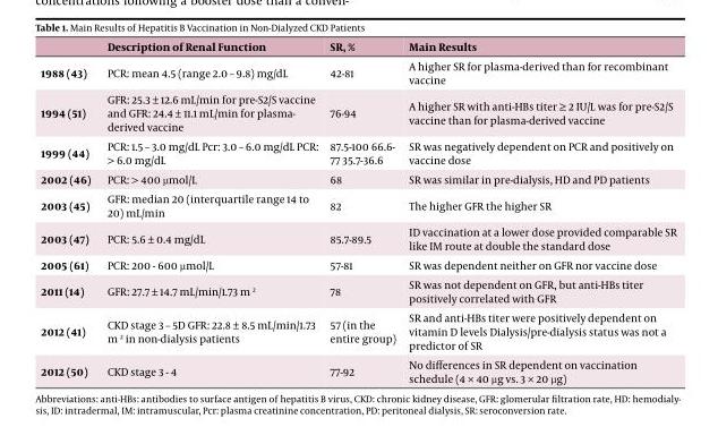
<table><thead><tr><td></td><td>Description of Renal Function</td><td>SR, %</td><td>Main Results</td></tr></thead><tbody><tr><td>1988 (43)</td><td>PCR: mean 4.5 (range 2.0 – 9.8) mg/dL</td><td>42-81</td><td>A higher SR for plasma-derived than for recombinant vaccine</td></tr><tr><td>1994 (51)</td><td>GFR: 25.3 ± 12.6 mL/min for pre-S2/S vaccine and GFR: 24.4 ± 11.1 mL/min for plasma- derived vaccine</td><td>76-94</td><td>A higher SR with anti-HBs titer ≥ 2 IU/L was for pre-S2/S vaccine than for plasma-derived vaccine</td></tr><tr><td>1999 (44)</td><td>PCR: 1.5 – 3.0 mg/dL Pcr: 3.0 – 6.0 mg/dL PCR: &gt; 6.0 mg/dL</td><td>87.5-100 66.6 77 35.7-36.6</td><td>SR was negatively dependent on PCR and positively on vaccine dose</td></tr><tr><td>2002 (46)</td><td>PCR: &gt; 400 μmol/L</td><td>68</td><td>SR was similar in pre-dialysis, HD and PD patients</td></tr><tr><td>2003 (45)</td><td>GFR: median 20 (interquartile range 14 to 20) mL/min</td><td>82</td><td>The higher GFR the higher SR</td></tr><tr><td>2003 (47)</td><td>PCR: 5.6 ± 0.4 mg/dL</td><td>85.7-89.5</td><td>ID vaccination at a lower dose provided comparable SR like IM route at double the standard dose</td></tr><tr><td>2005 (61)</td><td>PCR: 200 - 600 μmol/L</td><td>57-81</td><td>SR was dependent neither on GFR nor vaccine dose</td></tr><tr><td>2011 (14)</td><td>GFR: 27.7 ± 14.7 mL/min/1.73 m <sup>2</sup></td><td>78</td><td>SR was not dependent on GFR, but anti-HBs titer positively correlated with GFR</td></tr><tr><td>2012 (41)</td><td>CKD stage 3 – 5D GFR: 22.8 ± 8.5 mL/min/1.73 m <sup>2</sup> in non-dialysis patients</td><td>57 (in the entire group)</td><td>SR and anti-HBs titer were positively dependent on vitamin D levels Dialysis/pre-dialysis status was not a predictor of SR</td></tr><tr><td>2012 (50)</td><td>CKD stage 3 - 4</td><td>77-92</td><td>No differences in SR dependent on vaccination schedule (4 × 40 μg vs. 3 × 20 μg)</td></tr></tbody></table>